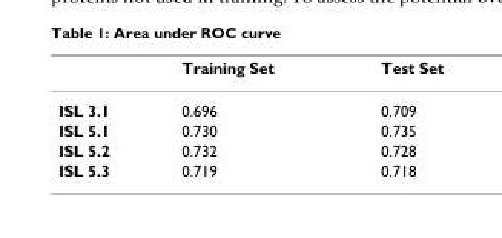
<table><thead><tr><td></td><td>Training Set</td><td>Test Set</td></tr></thead><tbody><tr><td>ISL 3.1</td><td>0.696</td><td>0.709</td></tr><tr><td>ISL 5.1</td><td>0.730</td><td>0.735</td></tr><tr><td>ISL 5.2</td><td>0.732</td><td>0.728</td></tr><tr><td>ISL 5.3</td><td>0.719</td><td>0.718</td></tr></tbody></table>